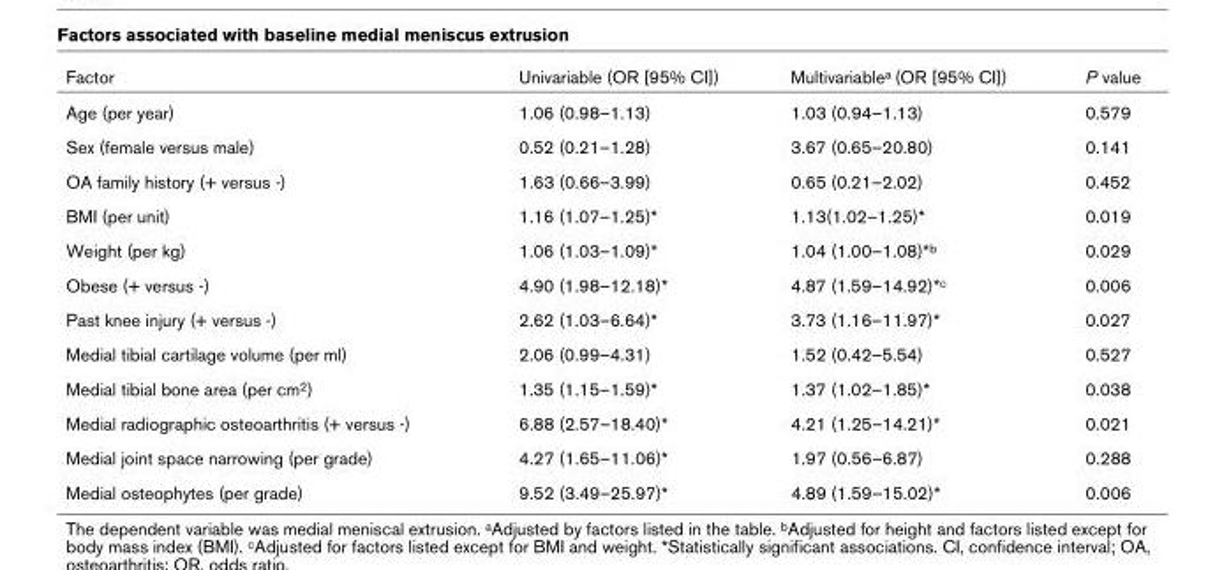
<table><thead><tr><td>Factor</td><td>Univariable (OR [95% CI])</td><td>Multivariable<sup>a</sup> (OR [95% CI])</td><td>P value</td></tr></thead><tbody><tr><td>Age (per year)</td><td>1.06 (0.98–1.13)</td><td>1.03 (0.94–1.13)</td><td>0.579</td></tr><tr><td>Sex (female versus male)</td><td>0.52 (0.21–1.28)</td><td>3.67 (0.65–20.80)</td><td>0.141</td></tr><tr><td>OA family history (+ versus -)</td><td>1.63 (0.66–3.99)</td><td>0.65 (0.21–2.02)</td><td>0.452</td></tr><tr><td>BMI (per unit)</td><td>1.16 (1.07–1.25)*</td><td>1.13(1.02–1.25)*</td><td>0.019</td></tr><tr><td>Weight (per kg)</td><td>1.06 (1.03–1.09)*</td><td>1.04 (1.00–1.08)*<sup>b</sup></td><td>0.029</td></tr><tr><td>Obese (+ versus -)</td><td>4.90 (1.98–12.18)*</td><td>4.87 (1.59–14.92)*<sup>c</sup></td><td>0.006</td></tr><tr><td>Past knee injury (+ versus -)</td><td>2.62 (1.03–6.64)*</td><td>3.73 (1.16–11.97)*</td><td>0.027</td></tr><tr><td>Medial tibial cartilage volume (per ml)</td><td>2.06 (0.99–4.31)</td><td>1.52 (0.42–5.54)</td><td>0.527</td></tr><tr><td>Medial tibial bone area (per cm<sup>2</sup>)</td><td>1.35 (1.15–1.59)*</td><td>1.37 (1.02–1.85)*</td><td>0.038</td></tr><tr><td>Medial radiographic osteoarthritis (+ versus -)</td><td>6.88 (2.57–18.40)*</td><td>4.21 (1.25–14.21)*</td><td>0.021</td></tr><tr><td>Medial joint space narrowing (per grade)</td><td>4.27 (1.65–11.06)*</td><td>1.97 (0.56–6.87)</td><td>0.288</td></tr><tr><td>Medial osteophytes (per grade)</td><td>9.52 (3.49–25.97)*</td><td>4.89 (1.59–15.02)*</td><td>0.006</td></tr></tbody></table>